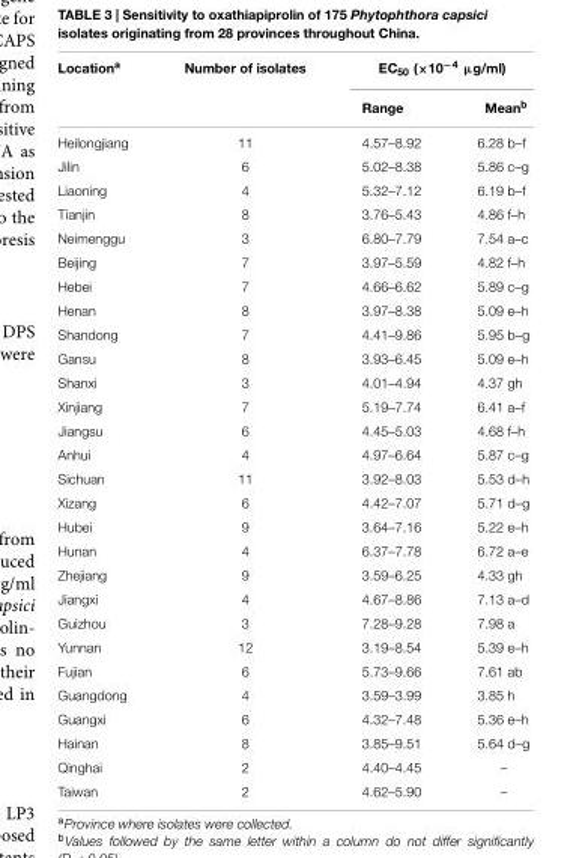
<table><thead><tr><td rowspan="2">Location<sup>a</sup></td><td rowspan="2">Number of isolates</td><td colspan="2">EC<sub>50</sub> (×10<sup>−4</sup> µg/ml)</td></tr><tr><td>Range</td><td>Mean<sup>b</sup></td></tr></thead><tbody><tr><td>Heilongjiang</td><td>11</td><td>4.57–8.92</td><td>6.28 b–f</td></tr><tr><td>Jilin</td><td>6</td><td>5.02–8.38</td><td>5.86 c–g</td></tr><tr><td>Liaoning</td><td>4</td><td>5.32–7.12</td><td>6.19 b–f</td></tr><tr><td>Tianjin</td><td>8</td><td>3.76–5.43</td><td>4.86 f–h</td></tr><tr><td>Neimenggu</td><td>3</td><td>6.80–7.79</td><td>7.54 a–c</td></tr><tr><td>Beijing</td><td>7</td><td>3.97–5.59</td><td>4.82 f–h</td></tr><tr><td>Hebei</td><td>7</td><td>4.66–6.62</td><td>5.89 c–g</td></tr><tr><td>Henan</td><td>8</td><td>3.97–8.38</td><td>5.09 e–h</td></tr><tr><td>Shandong</td><td>7</td><td>4.41–9.86</td><td>5.95 b–g</td></tr><tr><td>Gansu</td><td>8</td><td>3.93–6.45</td><td>5.09 e–h</td></tr><tr><td>Shanxi</td><td>3</td><td>4.01–4.94</td><td>4.37 gh</td></tr><tr><td>Xinjiang</td><td>7</td><td>5.19–7.74</td><td>6.41 a–f</td></tr><tr><td>Jiangsu</td><td>6</td><td>4.45–5.03</td><td>4.68 f–h</td></tr><tr><td>Anhui</td><td>4</td><td>4.97–6.64</td><td>5.87 c–g</td></tr><tr><td>Sichuan</td><td>11</td><td>3.92–8.03</td><td>5.53 d–h</td></tr><tr><td>Xizang</td><td>6</td><td>4.42–7.07</td><td>5.71 d–g</td></tr><tr><td>Hubei</td><td>9</td><td>3.64–7.16</td><td>5.22 e–h</td></tr><tr><td>Hunan</td><td>4</td><td>6.37–7.78</td><td>6.72 a–e</td></tr><tr><td>Zhejiang</td><td>9</td><td>3.59–6.25</td><td>4.33 gh</td></tr><tr><td>Jiangxi</td><td>4</td><td>4.67–8.86</td><td>7.13 a–d</td></tr><tr><td>Guizhou</td><td>3</td><td>7.28–9.28</td><td>7.98 a</td></tr><tr><td>Yunnan</td><td>12</td><td>3.19–8.54</td><td>5.39 e–h</td></tr><tr><td>Fujian</td><td>6</td><td>5.73–9.66</td><td>7.61 ab</td></tr><tr><td>Guangdong</td><td>4</td><td>3.59–3.99</td><td>3.85 h</td></tr><tr><td>Guangxi</td><td>6</td><td>4.32–7.48</td><td>5.36 e–h</td></tr><tr><td>Hainan</td><td>8</td><td>3.85–9.51</td><td>5.64 d–g</td></tr><tr><td>Qinghai</td><td>2</td><td>4.40–4.45</td><td>–</td></tr><tr><td>Taiwan</td><td>2</td><td>4.62–5.90</td><td>–</td></tr></tbody></table>